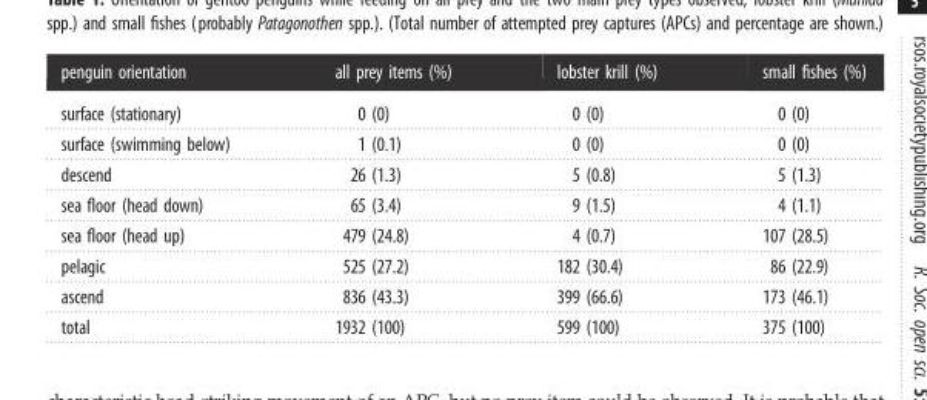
<table><thead><tr><td>penguin orientation</td><td>all prey items (%)</td><td>lobster krill (%)</td><td>small fishes (%)</td></tr></thead><tbody><tr><td>surface (stationary)</td><td>0 (0)</td><td>0 (0)</td><td>0 (0)</td></tr><tr><td>surface (swimming below)</td><td>1 (0.1)</td><td>0 (0)</td><td>0 (0)</td></tr><tr><td>descend</td><td>26 (1.3)</td><td>5 (0.8)</td><td>5 (1.3)</td></tr><tr><td>sea floor (head down)</td><td>65 (3.4)</td><td>9 (1.5)</td><td>4 (1.1)</td></tr><tr><td>sea floor (head up)</td><td>479 (24.8)</td><td>4 (0.7)</td><td>107 (28.5)</td></tr><tr><td>pelagic</td><td>525 (27.2)</td><td>182 (30.4)</td><td>86 (22.9)</td></tr><tr><td>ascend</td><td>836 (43.3)</td><td>399 (66.6)</td><td>173 (46.1)</td></tr><tr><td>total</td><td>1932 (100)</td><td>599 (100)</td><td>375 (100)</td></tr></tbody></table>